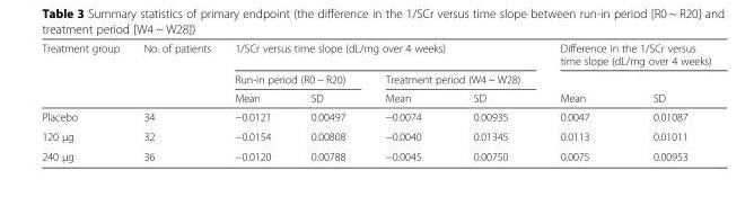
<table><thead><tr><td rowspan="3">Treatment group</td><td rowspan="3">No. of patients</td><td colspan="4">1/SCr versus time slope (dL/mg over 4 weeks)</td><td colspan="2">Difference in the 1/SCr versus time slope (dL/mg over 4 weeks)</td></tr><tr><td colspan="2">Run-in period (R0 ~ R20)</td><td colspan="2">Treatment period (W4 ~ W28)</td><td rowspan="2">Mean</td><td rowspan="2">SD</td></tr><tr><td>Mean</td><td>SD</td><td>Mean</td><td>SD</td></tr></thead><tbody><tr><td>Placebo</td><td>34</td><td>−0.0121</td><td>0.00497</td><td>−0.0074</td><td>0.00935</td><td>0.0047</td><td>0.01087</td></tr><tr><td>120 μg</td><td>32</td><td>−0.0154</td><td>0.00808</td><td>−0.0040</td><td>0.01345</td><td>0.0113</td><td>0.01011</td></tr><tr><td>240 μg</td><td>36</td><td>−0.0120</td><td>0.00788</td><td>−0.0045</td><td>0.00750</td><td>0.0075</td><td>0.00953</td></tr></tbody></table>